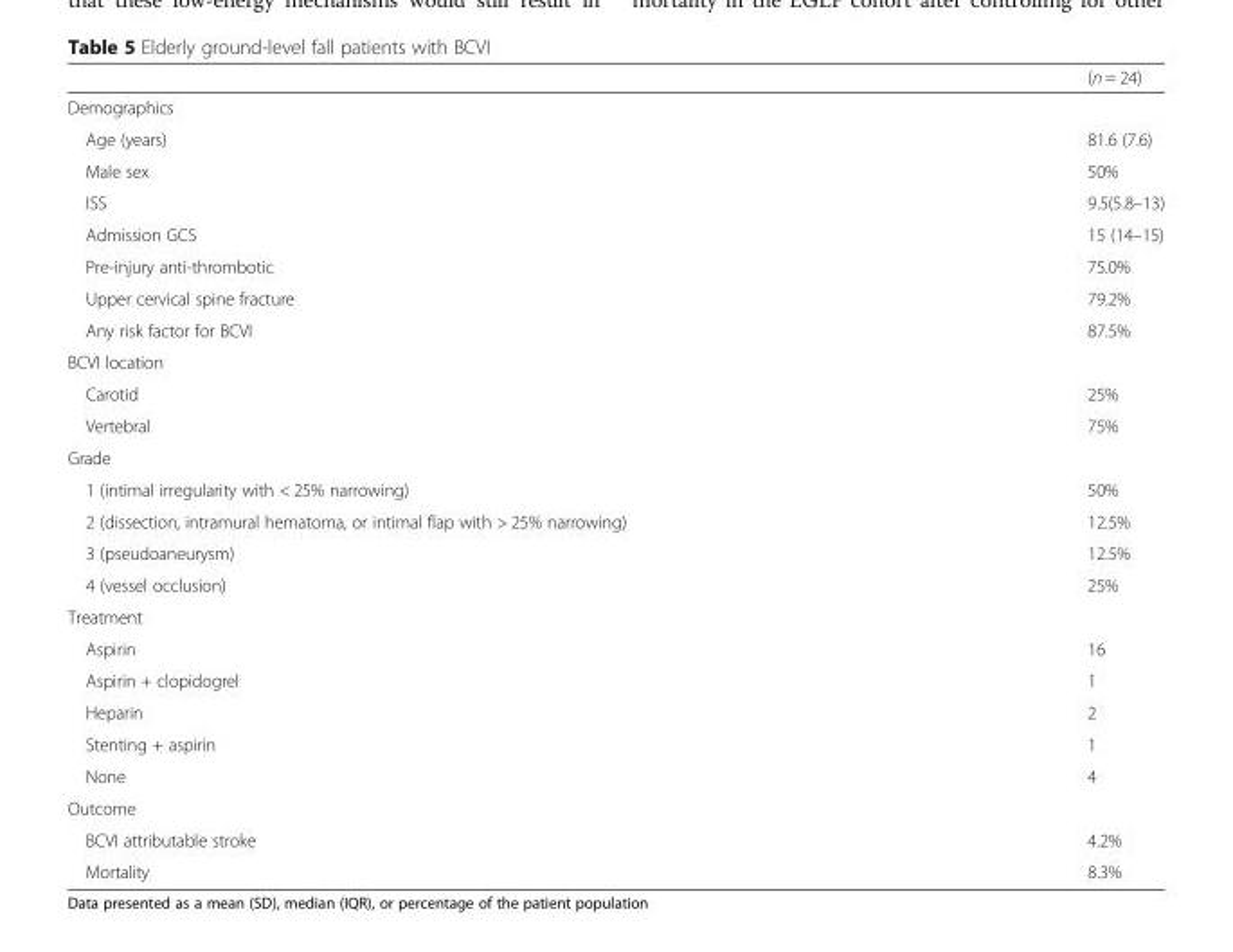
<table><thead><tr><td></td><td>(n = 24)</td></tr></thead><tbody><tr><td colspan="2">Demographics</td></tr><tr><td>Age (years)</td><td>81.6 (7.6)</td></tr><tr><td>Male sex</td><td>50%</td></tr><tr><td>ISS</td><td>9.5(5.8–13)</td></tr><tr><td>Admission GCS</td><td>15 (14–15)</td></tr><tr><td>Pre-injury anti-thrombotic</td><td>75.0%</td></tr><tr><td>Upper cervical spine fracture</td><td>79.2%</td></tr><tr><td>Any risk factor for BCVI</td><td>87.5%</td></tr><tr><td colspan="2">BCVI location</td></tr><tr><td>Carotid</td><td>25%</td></tr><tr><td>Vertebral</td><td>75%</td></tr><tr><td colspan="2">Grade</td></tr><tr><td>1 (intimal irregularity with &lt; 25% narrowing)</td><td>50%</td></tr><tr><td>2 (dissection, intramural hematoma, or intimal flap with &gt; 25% narrowing)</td><td>12.5%</td></tr><tr><td>3 (pseudoaneurysm)</td><td>12.5%</td></tr><tr><td>4 (vessel occlusion)</td><td>25%</td></tr><tr><td colspan="2">Treatment</td></tr><tr><td>Aspirin</td><td>16</td></tr><tr><td>Aspirin + clopidogrel</td><td>1</td></tr><tr><td>Heparin</td><td>2</td></tr><tr><td>Stenting + aspirin</td><td>1</td></tr><tr><td>None</td><td>4</td></tr><tr><td colspan="2">Outcome</td></tr><tr><td>BCVI attributable stroke</td><td>4.2%</td></tr><tr><td>Mortality</td><td>8.3%</td></tr></tbody></table>